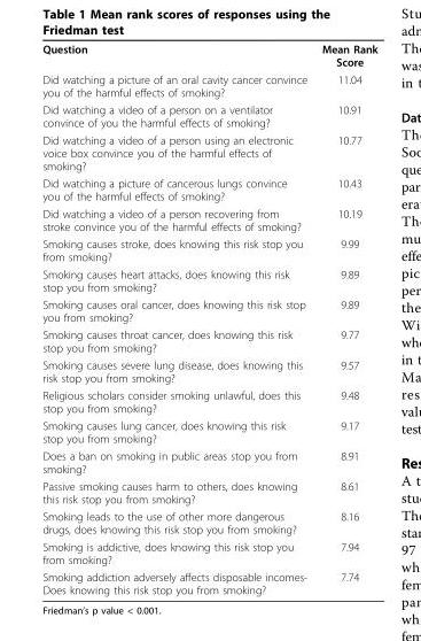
<table><tbody><tr><td>Question</td><td>Mean Rank Score</td></tr><tr><td>Did watching a picture of an oral cavity cancer convince you of the harmful effects of smoking?</td><td>11.04</td></tr><tr><td>Did watching a video of a person on a ventilator convince of you the harmful effects of smoking?</td><td>10.91</td></tr><tr><td>Did watching a video of a person using an electronic voice box convince you of the harmful effects of smoking?</td><td>10.77</td></tr><tr><td>Did watching a picture of cancerous lungs convince you of the harmful effects of smoking?</td><td>10.43</td></tr><tr><td>Did watching a video of a person recovering from stroke convince you of the harmful effects of smoking?</td><td>10.19</td></tr><tr><td>Smoking causes stroke, does knowing this risk stop you from smoking?</td><td>9.99</td></tr><tr><td>Smoking causes heart attacks, does knowing this risk stop you from smoking?</td><td>9.89</td></tr><tr><td>Smoking causes oral cancer, does knowing this risk stop you from smoking?</td><td>9.89</td></tr><tr><td>Smoking causes throat cancer, does knowing this risk stop you from smoking?</td><td>9.77</td></tr><tr><td>Smoking causes severe lung disease, does knowing this risk stop you from smoking?</td><td>9.57</td></tr><tr><td>Religious scholars consider smoking unlawful, does this stop you from smoking?</td><td>9.48</td></tr><tr><td>Smoking causes lung cancer, does knowing this risk stop you from smoking?</td><td>9.17</td></tr><tr><td>Does a ban on smoking in public areas stop you from smoking?</td><td>8.91</td></tr><tr><td>Passive smoking causes harm to others, does knowing this risk stop you from smoking?</td><td>8.61</td></tr><tr><td>Smoking leads to the use of other more dangerous drugs, does knowing this risk stop you from smoking?</td><td>8.16</td></tr><tr><td>Smoking is addictive, does knowing this risk stop you from smoking?</td><td>7.94</td></tr><tr><td>Smoking addiction adversely affects disposable incomes- Does knowing this risk stop you from smoking?</td><td>7.74</td></tr></tbody></table>